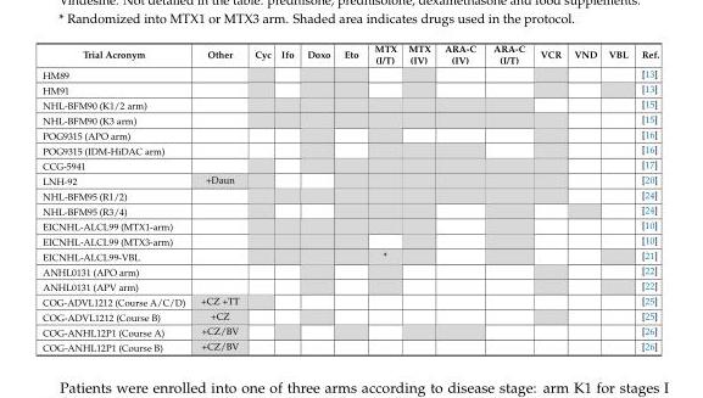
<table><thead><tr><td>Trial Acronym</td><td>Other</td><td>Cyc</td><td>Ifo</td><td>Doxo</td><td>Eto</td><td>MTX (I/T)</td><td>MTX (IV)</td><td>ARA-C (IV)</td><td>ARA-C (I/T)</td><td>VCR</td><td>VND</td><td>VBL</td><td>Ref.</td></tr></thead><tbody><tr><td>HM89</td><td></td><td></td><td></td><td></td><td></td><td></td><td></td><td></td><td></td><td></td><td></td><td></td><td>[13]</td></tr><tr><td>HM91</td><td></td><td></td><td></td><td></td><td></td><td></td><td></td><td></td><td></td><td></td><td></td><td></td><td>[13]</td></tr><tr><td>NHL-BFM90 (K1/2 arm)</td><td></td><td></td><td></td><td></td><td></td><td></td><td></td><td></td><td></td><td></td><td></td><td></td><td>[15]</td></tr><tr><td>NHL-BFM90 (K3 arm)</td><td></td><td></td><td></td><td></td><td></td><td></td><td></td><td></td><td></td><td></td><td></td><td></td><td>[15]</td></tr><tr><td>POG9315 (APO arm)</td><td></td><td></td><td></td><td></td><td></td><td></td><td></td><td></td><td></td><td></td><td></td><td></td><td>[16]</td></tr><tr><td>POG9315 (IDM-HiDAC arm)</td><td></td><td></td><td></td><td></td><td></td><td></td><td></td><td></td><td></td><td></td><td></td><td></td><td>[16]</td></tr><tr><td>CCG-5941</td><td></td><td></td><td></td><td></td><td></td><td></td><td></td><td></td><td></td><td></td><td></td><td></td><td>[17]</td></tr><tr><td>LNH-92</td><td>+Daun</td><td></td><td></td><td></td><td></td><td></td><td></td><td></td><td></td><td></td><td></td><td></td><td>[20]</td></tr><tr><td>NHL-BFM95 (R1/2)</td><td></td><td></td><td></td><td></td><td></td><td></td><td></td><td></td><td></td><td></td><td></td><td></td><td>[24]</td></tr><tr><td>NHL-BFM95 (R3/4)</td><td></td><td></td><td></td><td></td><td></td><td></td><td></td><td></td><td></td><td></td><td></td><td></td><td>[24]</td></tr><tr><td>EICNHL-ALCL99 (MTX1-arm)</td><td></td><td></td><td></td><td></td><td></td><td></td><td></td><td></td><td></td><td></td><td></td><td></td><td>[10]</td></tr><tr><td>EICNHL-ALCL99 (MTX3-arm)</td><td></td><td></td><td></td><td></td><td></td><td></td><td></td><td></td><td></td><td></td><td></td><td></td><td>[10]</td></tr><tr><td>EICNHL-ALCL99-VBL</td><td></td><td></td><td></td><td></td><td></td><td>*</td><td></td><td></td><td></td><td></td><td></td><td></td><td>[21]</td></tr><tr><td>ANHL0131 (APO arm)</td><td></td><td></td><td></td><td></td><td></td><td></td><td></td><td></td><td></td><td></td><td></td><td></td><td>[22]</td></tr><tr><td>ANHL0131 (APV arm)</td><td></td><td></td><td></td><td></td><td></td><td></td><td></td><td></td><td></td><td></td><td></td><td></td><td>[22]</td></tr><tr><td>COG-ADVL1212 (Course A/C/D)</td><td>+CZ +TT</td><td></td><td></td><td></td><td></td><td></td><td></td><td></td><td></td><td></td><td></td><td></td><td>[25]</td></tr><tr><td>COG-ADVL1212 (Course B)</td><td>+CZ</td><td></td><td></td><td></td><td></td><td></td><td></td><td></td><td></td><td></td><td></td><td></td><td>[25]</td></tr><tr><td>COG-ANHL12P1 (Course A)</td><td>+CZ/BV</td><td></td><td></td><td></td><td></td><td></td><td></td><td></td><td></td><td></td><td></td><td></td><td>[26]</td></tr><tr><td>COG-ANHL12P1 (Course B)</td><td>+CZ/BV</td><td></td><td></td><td></td><td></td><td></td><td></td><td></td><td></td><td></td><td></td><td></td><td>[26]</td></tr></tbody></table>